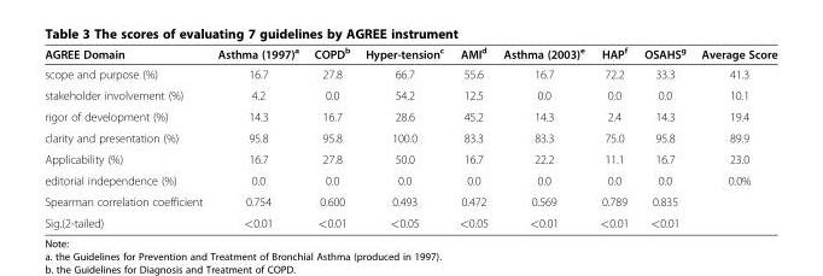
<table><thead><tr><td>AGREE Domain</td><td>Asthma (1997)<sup>a</sup></td><td>COPD<sup>b</sup></td><td>Hyper-tension<sup>c</sup></td><td>AMI<sup>d</sup></td><td>Asthma (2003)<sup>e</sup></td><td>HAP<sup>f</sup></td><td>OSAHS<sup>g</sup></td><td>Average Score</td></tr></thead><tbody><tr><td>scope and purpose (%)</td><td>16.7</td><td>27.8</td><td>66.7</td><td>55.6</td><td>16.7</td><td>72.2</td><td>33.3</td><td>41.3</td></tr><tr><td>stakeholder involvement (%)</td><td>4.2</td><td>0.0</td><td>54.2</td><td>12.5</td><td>0.0</td><td>0.0</td><td>0.0</td><td>10.1</td></tr><tr><td>rigor of development (%)</td><td>14.3</td><td>16.7</td><td>28.6</td><td>45.2</td><td>14.3</td><td>2.4</td><td>14.3</td><td>19.4</td></tr><tr><td>clarity and presentation (%)</td><td>95.8</td><td>95.8</td><td>100.0</td><td>83.3</td><td>83.3</td><td>75.0</td><td>95.8</td><td>89.9</td></tr><tr><td>Applicability (%)</td><td>16.7</td><td>27.8</td><td>50.0</td><td>16.7</td><td>22.2</td><td>11.1</td><td>16.7</td><td>23.0</td></tr><tr><td>editorial independence (%)</td><td>0.0</td><td>0.0</td><td>0.0</td><td>0.0</td><td>0.0</td><td>0.0</td><td>0.0</td><td>0.0%</td></tr><tr><td>Spearman correlation coefficient</td><td>0.754</td><td>0.600</td><td>0.493</td><td>0.472</td><td>0.569</td><td>0.789</td><td>0.835</td><td></td></tr><tr><td>Sig.(2-tailed)</td><td>&lt;0.01</td><td>&lt;0.01</td><td>&lt;0.05</td><td>&lt;0.05</td><td>&lt;0.01</td><td>&lt;0.01</td><td>&lt;0.01</td><td></td></tr></tbody></table>